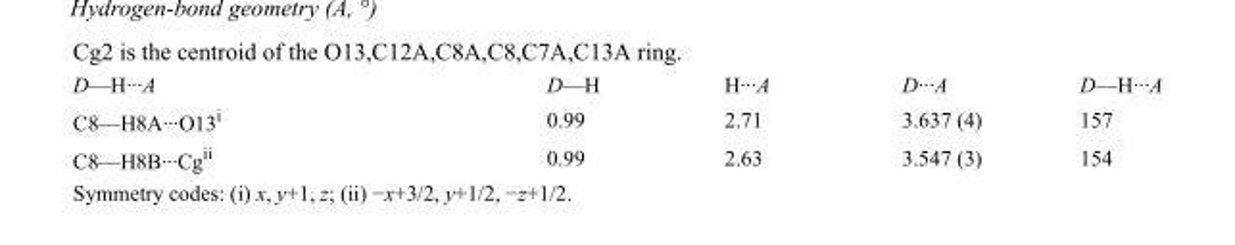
<table><tbody><tr><td>D—H···A</td><td>D—H</td><td>H···A</td><td>D···A</td><td>D—H···A</td></tr><tr><td>C8—H8A···O13<sup>i</sup></td><td>0.99</td><td>2.71</td><td>3.637 (4)</td><td>157</td></tr><tr><td>C8—H8B···Cg<sup>ii</sup></td><td>0.99</td><td>2.63</td><td>3.547 (3)</td><td>154</td></tr></tbody></table>